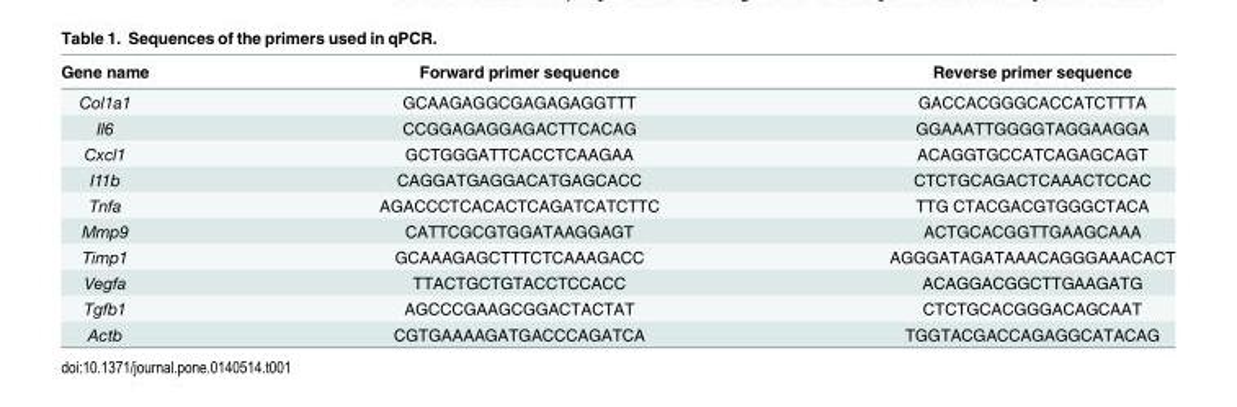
<table><thead><tr><td>Gene name</td><td>Forward primer sequence</td><td>Reverse primer sequence</td></tr></thead><tbody><tr><td>Col1a1</td><td>GCAAGAGGCGAGAGAGGTTT</td><td>GACCACGGGCACCATCTTTA</td></tr><tr><td>Il6</td><td>CCGGAGAGGAGACTTCACAG</td><td>GGAAATTGGGGTAGGAAGGA</td></tr><tr><td>Cxcl1</td><td>GCTGGGATTCACCTCAAGAA</td><td>ACAGGTGCCATCAGAGCAGT</td></tr><tr><td>I11b</td><td>CAGGATGAGGACATGAGCACC</td><td>CTCTGCAGACTCAAACTCCAC</td></tr><tr><td>Tnfa</td><td>AGACCCTCACACTCAGATCATCTTC</td><td>TTG CTACGACGTGGGCTACA</td></tr><tr><td>Mmp9</td><td>CATTCGCGTGGATAAGGAGT</td><td>ACTGCACGGTTGAAGCAAA</td></tr><tr><td>Timp1</td><td>GCAAAGAGCTTTCTCAAAGACC</td><td>AGGGATAGATAAACAGGGAAACACT</td></tr><tr><td>Vegfa</td><td>TTACTGCTGTACCTCCACC</td><td>ACAGGACGGCTTGAAGATG</td></tr><tr><td>Tgfb1</td><td>AGCCCGAAGCGGACTACTAT</td><td>CTCTGCACGGGACAGCAAT</td></tr><tr><td>Actb</td><td>CGTGAAAAGATGACCCAGATCA</td><td>TGGTACGACCAGAGGCATACAG</td></tr></tbody></table>